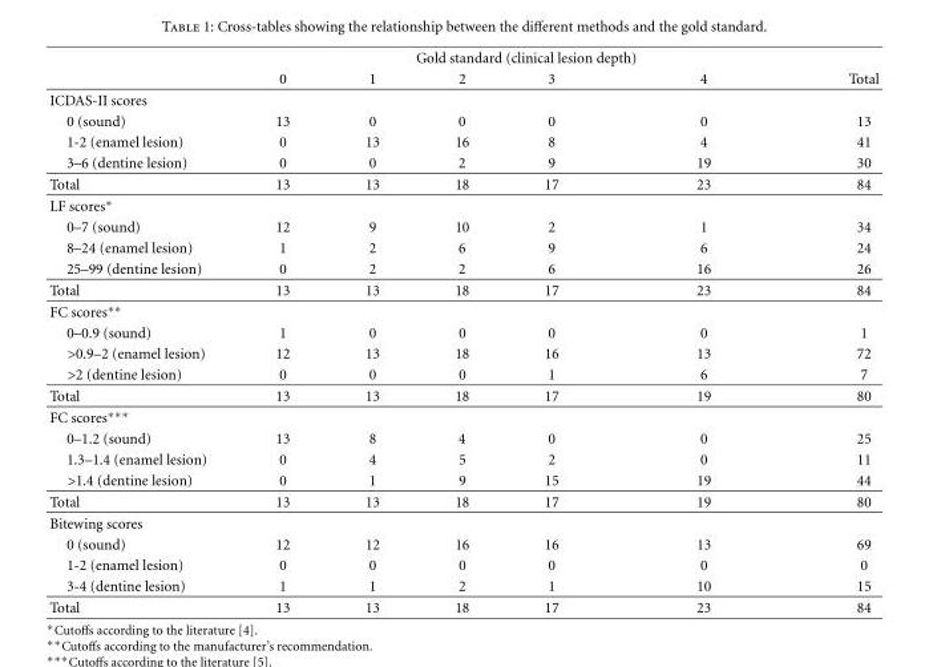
<table><thead><tr><td rowspan="2"></td><td colspan="5">Gold standard (clinical lesion depth)</td><td rowspan="2">Total</td></tr><tr><td>0</td><td>1</td><td>2</td><td>3</td><td>4</td></tr></thead><tbody><tr><td colspan="7">ICDAS-II scores</td></tr><tr><td>0 (sound)</td><td>13</td><td>0</td><td>0</td><td>0</td><td>0</td><td>13</td></tr><tr><td>1-2 (enamel lesion)</td><td>0</td><td>13</td><td>16</td><td>8</td><td>4</td><td>41</td></tr><tr><td>3–6 (dentine lesion)</td><td>0</td><td>0</td><td>2</td><td>9</td><td>19</td><td>30</td></tr><tr><td>Total</td><td>13</td><td>13</td><td>18</td><td>17</td><td>23</td><td>84</td></tr><tr><td colspan="7">LF scores∗</td></tr><tr><td>0–7 (sound)</td><td>12</td><td>9</td><td>10</td><td>2</td><td>1</td><td>34</td></tr><tr><td>8–24 (enamel lesion)</td><td>1</td><td>2</td><td>6</td><td>9</td><td>6</td><td>24</td></tr><tr><td>25–99 (dentine lesion)</td><td>0</td><td>2</td><td>2</td><td>6</td><td>16</td><td>26</td></tr><tr><td>Total</td><td>13</td><td>13</td><td>18</td><td>17</td><td>23</td><td>84</td></tr><tr><td colspan="7">FC scores∗∗</td></tr><tr><td>0–0.9 (sound)</td><td>1</td><td>0</td><td>0</td><td>0</td><td>0</td><td>1</td></tr><tr><td>&gt;0.9–2 (enamel lesion)</td><td>12</td><td>13</td><td>18</td><td>16</td><td>13</td><td>72</td></tr><tr><td>&gt;2 (dentine lesion)</td><td>0</td><td>0</td><td>0</td><td>1</td><td>6</td><td>7</td></tr><tr><td>Total</td><td>13</td><td>13</td><td>18</td><td>17</td><td>19</td><td>80</td></tr><tr><td colspan="7">FC scores∗∗∗</td></tr><tr><td>0–1.2 (sound)</td><td>13</td><td>8</td><td>4</td><td>0</td><td>0</td><td>25</td></tr><tr><td>1.3–1.4 (enamel lesion)</td><td>0</td><td>4</td><td>5</td><td>2</td><td>0</td><td>11</td></tr><tr><td>&gt;1.4 (dentine lesion)</td><td>0</td><td>1</td><td>9</td><td>15</td><td>19</td><td>44</td></tr><tr><td>Total</td><td>13</td><td>13</td><td>18</td><td>17</td><td>19</td><td>80</td></tr><tr><td colspan="7">Bitewing scores</td></tr><tr><td>0 (sound)</td><td>12</td><td>12</td><td>16</td><td>16</td><td>13</td><td>69</td></tr><tr><td>1-2 (enamel lesion)</td><td>0</td><td>0</td><td>0</td><td>0</td><td>0</td><td>0</td></tr><tr><td>3-4 (dentine lesion)</td><td>1</td><td>1</td><td>2</td><td>1</td><td>10</td><td>15</td></tr><tr><td>Total</td><td>13</td><td>13</td><td>18</td><td>17</td><td>23</td><td>84</td></tr></tbody></table>